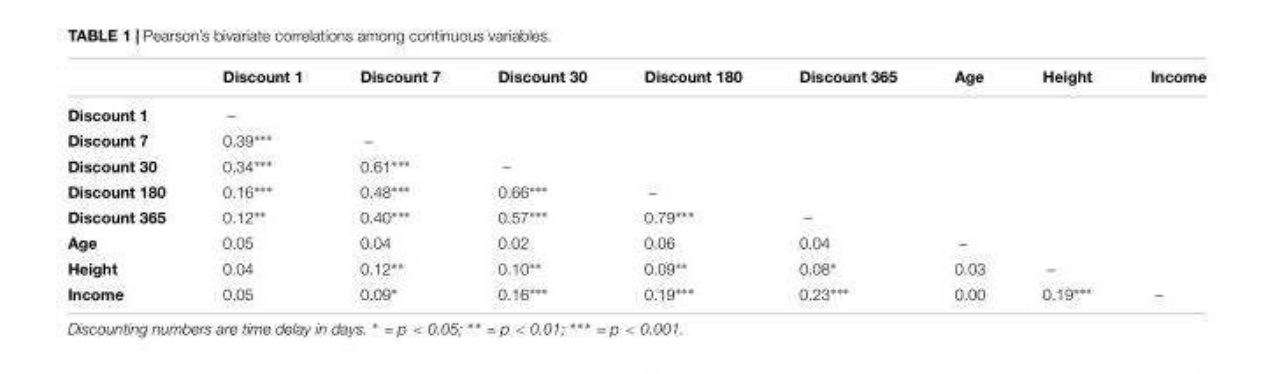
<table><thead><tr><td></td><td>Discount 1</td><td>Discount 7</td><td>Discount 30</td><td>Discount 180</td><td>Discount 365</td><td>Age</td><td>Height</td><td>Income</td></tr></thead><tbody><tr><td>Discount 1</td><td>–</td><td></td><td></td><td></td><td></td><td></td><td></td><td></td></tr><tr><td>Discount 7</td><td>0.39∗∗∗</td><td>–</td><td></td><td></td><td></td><td></td><td></td><td></td></tr><tr><td>Discount 30</td><td>0.34∗∗∗</td><td>0.61∗∗∗</td><td>–</td><td></td><td></td><td></td><td></td><td></td></tr><tr><td>Discount 180</td><td>0.16∗∗∗</td><td>0.48∗∗∗</td><td>0.66∗∗∗</td><td>–</td><td></td><td></td><td></td><td></td></tr><tr><td>Discount 365</td><td>0.12∗∗</td><td>0.40∗∗∗</td><td>0.57∗∗∗</td><td>0.79∗∗∗</td><td>–</td><td></td><td></td><td></td></tr><tr><td>Age</td><td>0.05</td><td>0.04</td><td>0.02</td><td>0.06</td><td>0.04</td><td>–</td><td></td><td></td></tr><tr><td>Height</td><td>0.04</td><td>0.12∗∗</td><td>0.10∗∗</td><td>0.09∗∗</td><td>0.08∗</td><td>0.03</td><td>–</td><td></td></tr><tr><td>Income</td><td>0.05</td><td>0.09∗</td><td>0.16∗∗∗</td><td>0.19∗∗∗</td><td>0.23∗∗∗</td><td>0.00</td><td>0.19∗∗∗</td><td>–</td></tr></tbody></table>